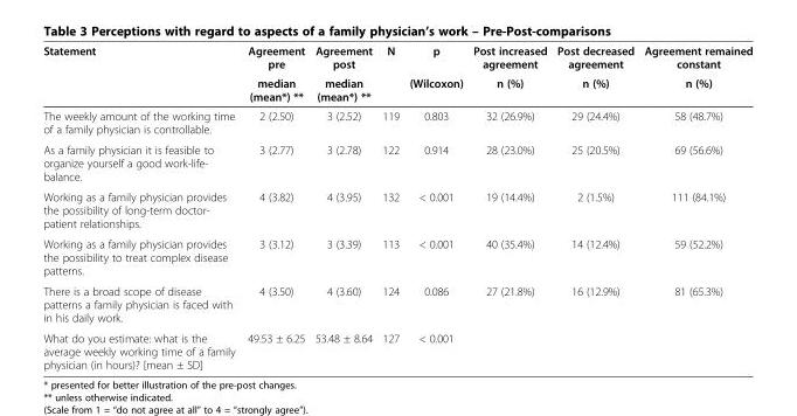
<table><thead><tr><td rowspan="2">Statement</td><td rowspan="2">Agreement pre median (mean*) **</td><td rowspan="2">Agreement post median (mean*) **</td><td rowspan="2">N</td><td rowspan="2">p (Wilcoxon)</td><td rowspan="2">Post increased agreement n (%)</td><td rowspan="2">Post decreased agreement n (%)</td><td rowspan="2">Agreement remained constant n (%)</td></tr><tr></tr></thead><tbody><tr><td>The weekly amount of the working time of a family physician is controllable.</td><td>2 (2.50)</td><td>3 (2.52)</td><td>119</td><td>0.803</td><td>32 (26.9%)</td><td>29 (24.4%)</td><td>58 (48.7%)</td></tr><tr><td>As a family physician it is feasible to organize yourself a good work-life- balance.</td><td>3 (2.77)</td><td>3 (2.78)</td><td>122</td><td>0.914</td><td>28 (23.0%)</td><td>25 (20.5%)</td><td>69 (56.6%)</td></tr><tr><td>Working as a family physician provides the possibility of long-term doctor- patient relationships.</td><td>4 (3.82)</td><td>4 (3.95)</td><td>132</td><td>&lt; 0.001</td><td>19 (14.4%)</td><td>2 (1.5%)</td><td>111 (84.1%)</td></tr><tr><td>Working as a family physician provides the possibility to treat complex disease patterns.</td><td>3 (3.12)</td><td>3 (3.39)</td><td>113</td><td>&lt; 0.001</td><td>40 (35.4%)</td><td>14 (12.4%)</td><td>59 (52.2%)</td></tr><tr><td>There is a broad scope of disease patterns a family physician is faced with in his daily work.</td><td>4 (3.50)</td><td>4 (3.60)</td><td>124</td><td>0.086</td><td>27 (21.8%)</td><td>16 (12.9%)</td><td>81 (65.3%)</td></tr><tr><td>What do you estimate: what is the average weekly working time of a family physician (in hours)? [mean ± SD]</td><td>49.53 ± 6.25</td><td>53.48 ± 8.64</td><td>127</td><td>&lt; 0.001</td><td></td><td></td><td></td></tr></tbody></table>